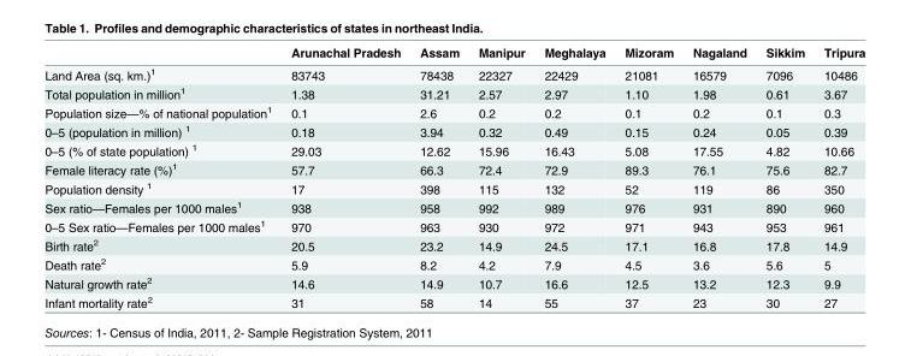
<table><thead><tr><td></td><td>Arunachal Pradesh</td><td>Assam</td><td>Manipur</td><td>Meghalaya</td><td>Mizoram</td><td>Nagaland</td><td>Sikkim</td><td>Tripura</td></tr></thead><tbody><tr><td>Land Area (sq. km.)<sup>1</sup></td><td>83743</td><td>78438</td><td>22327</td><td>22429</td><td>21081</td><td>16579</td><td>7096</td><td>10486</td></tr><tr><td>Total population in million<sup>1</sup></td><td>1.38</td><td>31.21</td><td>2.57</td><td>2.97</td><td>1.10</td><td>1.98</td><td>0.61</td><td>3.67</td></tr><tr><td>Population size—% of national population<sup>1</sup></td><td>0.1</td><td>2.6</td><td>0.2</td><td>0.2</td><td>0.1</td><td>0.2</td><td>0.1</td><td>0.3</td></tr><tr><td>0–5 (population in million) <sup>1</sup></td><td>0.18</td><td>3.94</td><td>0.32</td><td>0.49</td><td>0.15</td><td>0.24</td><td>0.05</td><td>0.39</td></tr><tr><td>0–5 (% of state population) <sup>1</sup></td><td>29.03</td><td>12.62</td><td>15.96</td><td>16.43</td><td>5.08</td><td>17.55</td><td>4.82</td><td>10.66</td></tr><tr><td>Female literacy rate (%)<sup>1</sup></td><td>57.7</td><td>66.3</td><td>72.4</td><td>72.9</td><td>89.3</td><td>76.1</td><td>75.6</td><td>82.7</td></tr><tr><td>Population density <sup>1</sup></td><td>17</td><td>398</td><td>115</td><td>132</td><td>52</td><td>119</td><td>86</td><td>350</td></tr><tr><td>Sex ratio—Females per 1000 males<sup>1</sup></td><td>938</td><td>958</td><td>992</td><td>989</td><td>976</td><td>931</td><td>890</td><td>960</td></tr><tr><td>0–5 Sex ratio—Females per 1000 males<sup>1</sup></td><td>970</td><td>963</td><td>930</td><td>972</td><td>971</td><td>943</td><td>953</td><td>961</td></tr><tr><td>Birth rate<sup>2</sup></td><td>20.5</td><td>23.2</td><td>14.9</td><td>24.5</td><td>17.1</td><td>16.8</td><td>17.8</td><td>14.9</td></tr><tr><td>Death rate<sup>2</sup></td><td>5.9</td><td>8.2</td><td>4.2</td><td>7.9</td><td>4.5</td><td>3.6</td><td>5.6</td><td>5</td></tr><tr><td>Natural growth rate<sup>2</sup></td><td>14.6</td><td>14.9</td><td>10.7</td><td>16.6</td><td>12.5</td><td>13.2</td><td>12.3</td><td>9.9</td></tr><tr><td>Infant mortality rate<sup>2</sup></td><td>31</td><td>58</td><td>14</td><td>55</td><td>37</td><td>23</td><td>30</td><td>27</td></tr></tbody></table>